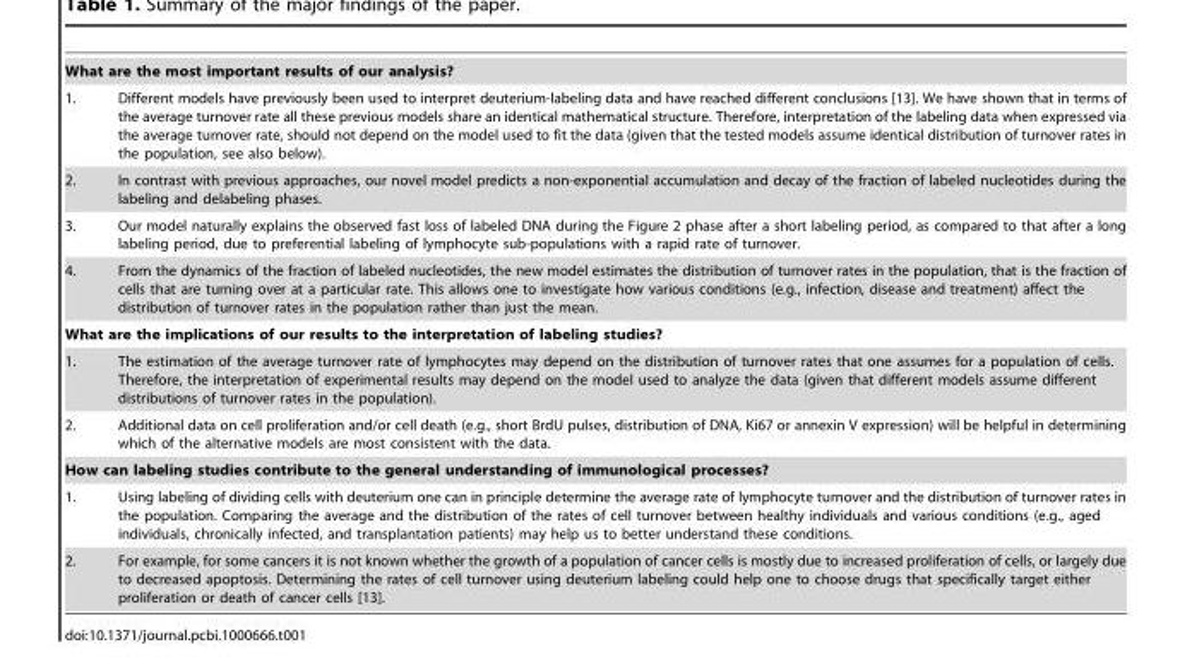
<table><tbody><tr><td colspan="2">What are the most important results of our analysis?</td></tr><tr><td>1.</td><td>Different models have previously been used to interpret deuterium-labeling data and have reached different conclusions [13]. We have shown that in terms of the average turnover rate all these previous models share an identical mathematical structure. Therefore, interpretation of the labeling data when expressed via the average turnover rate, should not depend on the model used to fit the data (given that the tested models assume identical distribution of turnover rates in the population, see also below).</td></tr><tr><td>2.</td><td>In contrast with previous approaches, our novel model predicts a non-exponential accumulation and decay of the fraction of labeled nucleotides during the labeling and delabeling phases.</td></tr><tr><td>3.</td><td>Our model naturally explains the observed fast loss of labeled DNA during the Figure 2 phase after a short labeling period, as compared to that after a long labeling period, due to preferential labeling of lymphocyte sub-populations with a rapid rate of turnover.</td></tr><tr><td>4.</td><td>From the dynamics of the fraction of labeled nucleotides, the new model estimates the distribution of turnover rates in the population, that is the fraction of cells that are turning over at a particular rate. This allows one to investigate how various conditions (e.g., infection, disease and treatment) affect the distribution of turnover rates in the population rather than just the mean.</td></tr><tr><td colspan="2">What are the implications of our results to the interpretation of labeling studies?</td></tr><tr><td>1.</td><td>The estimation of the average turnover rate of lymphocytes may depend on the distribution of turnover rates that one assumes for a population of cells. Therefore, the interpretation of experimental results may depend on the model used to analyze the data (given that different models assume different distributions of turnover rates in the population).</td></tr><tr><td>2.</td><td>Additional data on cell proliferation and/or cell death (e.g., short BrdU pulses, distribution of DNA, Ki67 or annexin V expression) will be helpful in determining which of the alternative models are most consistent with the data.</td></tr><tr><td colspan="2">How can labeling studies contribute to the general understanding of immunological processes?</td></tr><tr><td>1.</td><td>Using labeling of dividing cells with deuterium one can in principle determine the average rate of lymphocyte turnover and the distribution of turnover rates in the population. Comparing the average and the distribution of the rates of cell turnover between healthy individuals and various conditions (e.g., aged individuals, chronically infected, and transplantation patients) may help us to better understand these conditions.</td></tr><tr><td>2.</td><td>For example, for some cancers it is not known whether the growth of a population of cancer cells is mostly due to increased proliferation of cells, or largely due to decreased apoptosis. Determining the rates of cell turnover using deuterium labeling could help one to choose drugs that specifically target either proliferation or death of cancer cells [13].</td></tr></tbody></table>